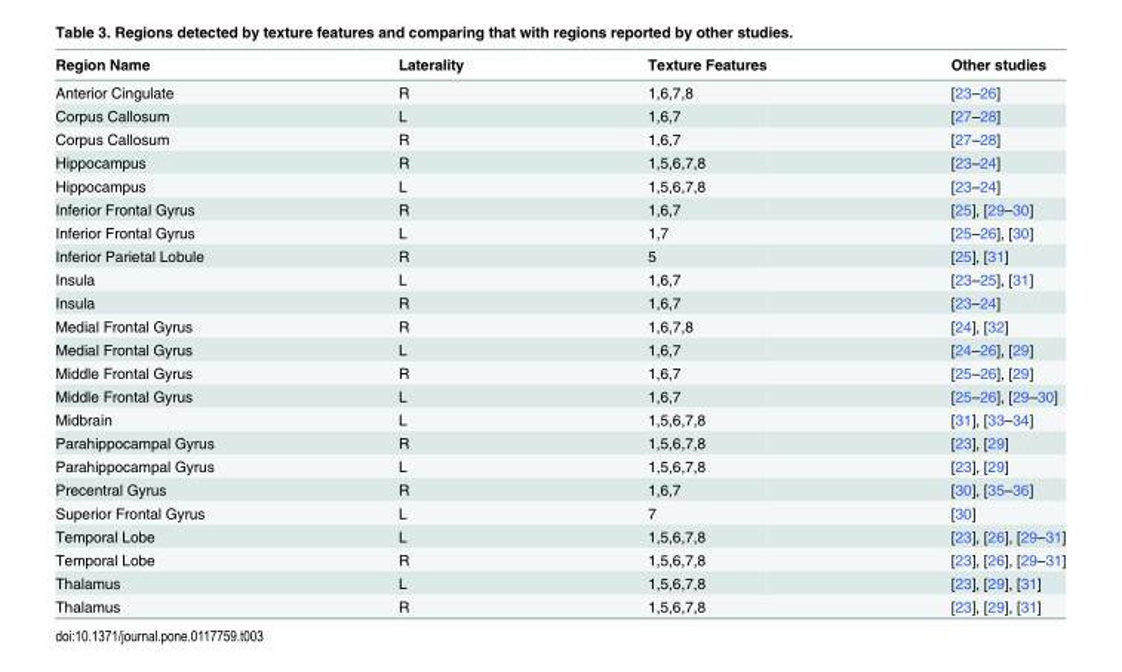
<table><thead><tr><td>Region Name</td><td>Laterality</td><td>Texture Features</td><td>Other studies</td></tr></thead><tbody><tr><td>Anterior Cingulate</td><td>R</td><td>1,6,7,8</td><td>[23–26]</td></tr><tr><td>Corpus Callosum</td><td>L</td><td>1,6,7</td><td>[27–28]</td></tr><tr><td>Corpus Callosum</td><td>R</td><td>1,6,7</td><td>[27–28]</td></tr><tr><td>Hippocampus</td><td>R</td><td>1,5,6,7,8</td><td>[23–24]</td></tr><tr><td>Hippocampus</td><td>L</td><td>1,5,6,7,8</td><td>[23–24]</td></tr><tr><td>Inferior Frontal Gyrus</td><td>R</td><td>1,6,7</td><td>[25], [29–30]</td></tr><tr><td>Inferior Frontal Gyrus</td><td>L</td><td>1,7</td><td>[25–26], [30]</td></tr><tr><td>Inferior Parietal Lobule</td><td>R</td><td>5</td><td>[25], [31]</td></tr><tr><td>Insula</td><td>L</td><td>1,6,7</td><td>[23–25], [31]</td></tr><tr><td>Insula</td><td>R</td><td>1,6,7</td><td>[23–24]</td></tr><tr><td>Medial Frontal Gyrus</td><td>R</td><td>1,6,7,8</td><td>[24], [32]</td></tr><tr><td>Medial Frontal Gyrus</td><td>L</td><td>1,6,7</td><td>[24–26], [29]</td></tr><tr><td>Middle Frontal Gyrus</td><td>R</td><td>1,6,7</td><td>[25–26], [29]</td></tr><tr><td>Middle Frontal Gyrus</td><td>L</td><td>1,6,7</td><td>[25–26], [29–30]</td></tr><tr><td>Midbrain</td><td>L</td><td>1,5,6,7,8</td><td>[31], [33–34]</td></tr><tr><td>Parahippocampal Gyrus</td><td>R</td><td>1,5,6,7,8</td><td>[23], [29]</td></tr><tr><td>Parahippocampal Gyrus</td><td>L</td><td>1,5,6,7,8</td><td>[23], [29]</td></tr><tr><td>Precentral Gyrus</td><td>R</td><td>1,6,7</td><td>[30], [35–36]</td></tr><tr><td>Superior Frontal Gyrus</td><td>L</td><td>7</td><td>[30]</td></tr><tr><td>Temporal Lobe</td><td>L</td><td>1,5,6,7,8</td><td>[23], [26], [29–31]</td></tr><tr><td>Temporal Lobe</td><td>R</td><td>1,5,6,7,8</td><td>[23], [26], [29–31]</td></tr><tr><td>Thalamus</td><td>L</td><td>1,5,6,7,8</td><td>[23], [29], [31]</td></tr><tr><td>Thalamus</td><td>R</td><td>1,5,6,7,8</td><td>[23], [29], [31]</td></tr></tbody></table>